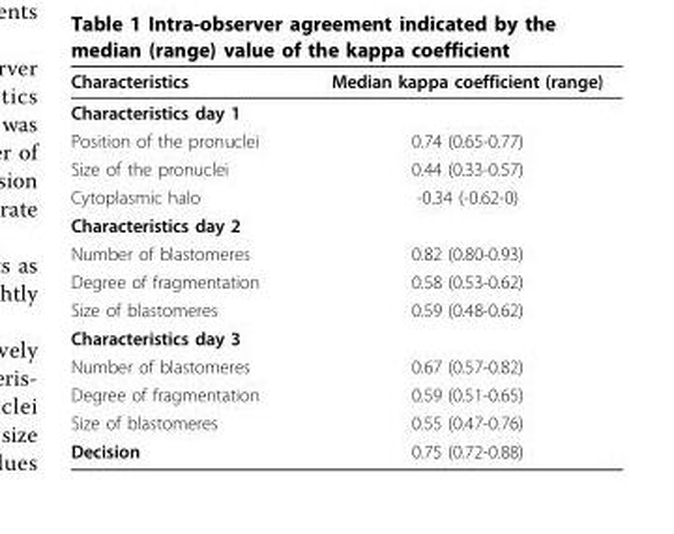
<table><thead><tr><td>Characteristics</td><td>Median kappa coefficient (range)</td></tr></thead><tbody><tr><td colspan="2">Characteristics day 1</td></tr><tr><td>Position of the pronuclei</td><td>0.74 (0.65-0.77)</td></tr><tr><td>Size of the pronuclei</td><td>0.44 (0.33-0.57)</td></tr><tr><td>Cytoplasmic halo</td><td>-0.34 (-0.62-0)</td></tr><tr><td colspan="2">Characteristics day 2</td></tr><tr><td>Number of blastomeres</td><td>0.82 (0.80-0.93)</td></tr><tr><td>Degree of fragmentation</td><td>0.58 (0.53-0.62)</td></tr><tr><td>Size of blastomeres</td><td>0.59 (0.48-0.62)</td></tr><tr><td colspan="2">Characteristics day 3</td></tr><tr><td>Number of blastomeres</td><td>0.67 (0.57-0.82)</td></tr><tr><td>Degree of fragmentation</td><td>0.59 (0.51-0.65)</td></tr><tr><td>Size of blastomeres</td><td>0.55 (0.47-0.76)</td></tr><tr><td>Decision</td><td>0.75 (0.72-0.88)</td></tr></tbody></table>